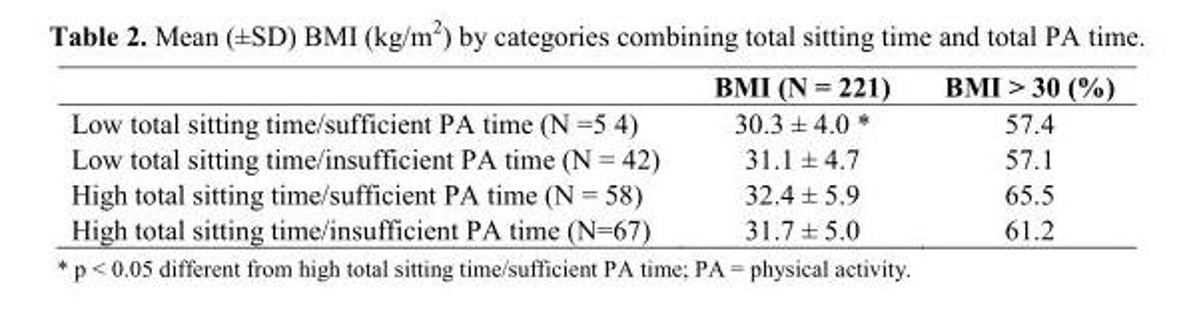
<table><thead><tr><td></td><td>BMI (N = 221)</td><td>BMI &gt; 30 (%)</td></tr></thead><tbody><tr><td>Low total sitting time/sufficient PA time (N =5 4)</td><td>30.3 ± 4.0 *</td><td>57.4</td></tr><tr><td>Low total sitting time/insufficient PA time (N = 42)</td><td>31.1 ± 4.7</td><td>57.1</td></tr><tr><td>High total sitting time/sufficient PA time (N = 58)</td><td>32.4 ± 5.9</td><td>65.5</td></tr><tr><td>High total sitting time/insufficient PA time (N=67)</td><td>31.7 ± 5.0</td><td>61.2</td></tr></tbody></table>